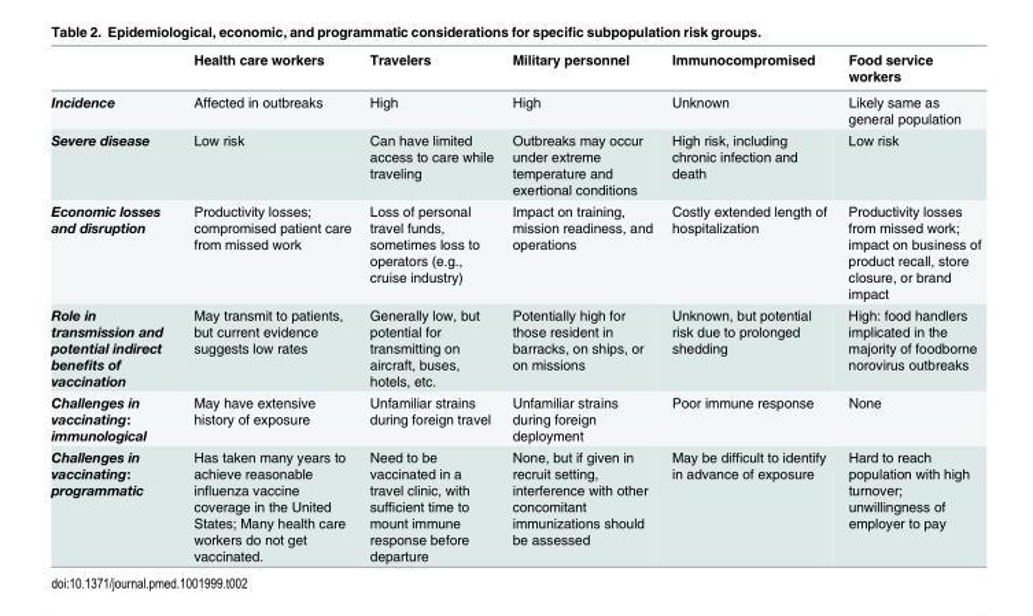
<table><thead><tr><td></td><td>Health care workers</td><td>Travelers</td><td>Military personnel</td><td>Immunocompromised</td><td>Food service workers</td></tr></thead><tbody><tr><td>Incidence</td><td>Affected in outbreaks</td><td>High</td><td>High</td><td>Unknown</td><td>Likely same as general population</td></tr><tr><td>Severe disease</td><td>Low risk</td><td>Can have limited access to care while traveling</td><td>Outbreaks may occur under extreme temperature and exertional conditions</td><td>High risk, including chronic infection and death</td><td>Low risk</td></tr><tr><td>Economic losses and disruption</td><td>Productivity losses; compromised patient care from missed work</td><td>Loss of personal travel funds, sometimes loss to operators (e.g., cruise industry)</td><td>Impact on training, mission readiness, and operations</td><td>Costly extended length of hospitalization</td><td>Productivity losses from missed work; impact on business of product recall, store closure, or brand impact</td></tr><tr><td>Role in transmission and potential indirect benefits of vaccination</td><td>May transmit to patients, but current evidence suggests low rates</td><td>Generally low, but potential for transmitting on aircraft, buses, hotels, etc.</td><td>Potentially high for those resident in barracks, on ships, or on missions</td><td>Unknown, but potential risk due to prolonged shedding</td><td>High: food handlers implicated in the majority of foodborne norovirus outbreaks</td></tr><tr><td>Challenges in vaccinating: immunological</td><td>May have extensive history of exposure</td><td>Unfamiliar strains during foreign travel</td><td>Unfamiliar strains during foreign deployment</td><td>Poor immune response</td><td>None</td></tr><tr><td>Challenges in vaccinating: programmatic</td><td>Has taken many years to achieve reasonable influenza vaccine coverage in the United States; Many health care workers do not get vaccinated.</td><td>Need to be vaccinated in a travel clinic, with sufficient time to mount immune response before departure</td><td>None, but if given in recruit setting, interference with other concomitant immunizations should be assessed</td><td>May be difficult to identify in advance of exposure</td><td>Hard to reach population with high turnover; unwillingness of employer to pay</td></tr></tbody></table>